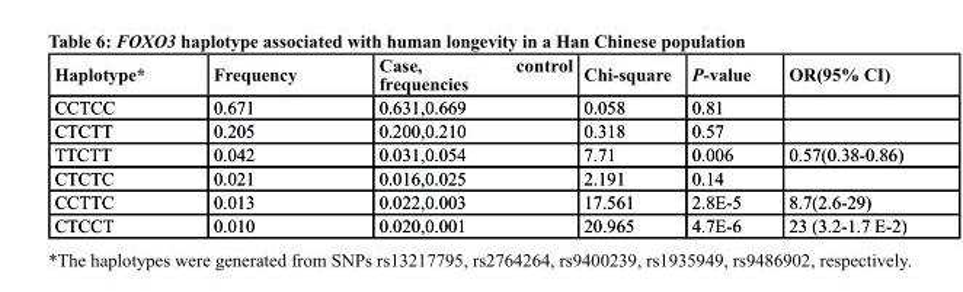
<table><thead><tr><td>Haplotype*</td><td>Frequency</td><td>case, control frequencies</td><td>chi-square</td><td>P-value</td><td>Or(95% cI)</td></tr></thead><tbody><tr><td>CCTCC</td><td>0.671</td><td>0.631,0.669</td><td>0.058</td><td>0.81</td><td></td></tr><tr><td>CTCTT</td><td>0.205</td><td>0.200,0.210</td><td>0.318</td><td>0.57</td><td></td></tr><tr><td>TTCTT</td><td>0.042</td><td>0.031,0.054</td><td>7.71</td><td>0.006</td><td>0.57(0.38-0.86)</td></tr><tr><td>CTCTC</td><td>0.021</td><td>0.016,0.025</td><td>2.191</td><td>0.14</td><td></td></tr><tr><td>CCTTC</td><td>0.013</td><td>0.022,0.003</td><td>17.561</td><td>2.8E-5</td><td>8.7(2.6-29)</td></tr><tr><td>CTCCT</td><td>0.010</td><td>0.020,0.001</td><td>20.965</td><td>4.7E-6</td><td>23 (3.2-1.7 E-2)</td></tr></tbody></table>